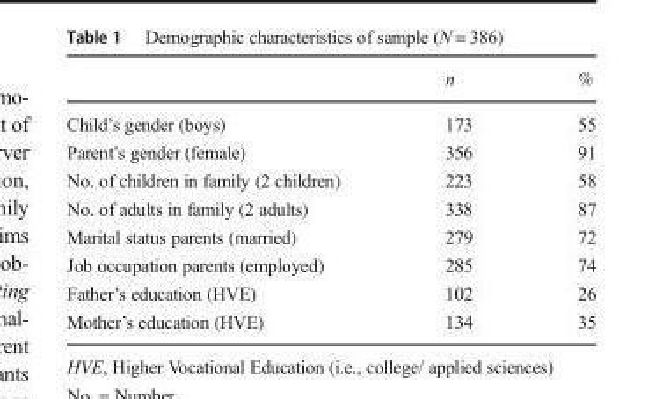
<table><thead><tr><td></td><td>n</td><td>%</td></tr></thead><tbody><tr><td>Child’s gender (boys)</td><td>173</td><td>55</td></tr><tr><td>Parent’s gender (female)</td><td>356</td><td>91</td></tr><tr><td>No. of children in family (2 children)</td><td>223</td><td>58</td></tr><tr><td>No. of adults in family (2 adults)</td><td>338</td><td>87</td></tr><tr><td>Marital status parents (married)</td><td>279</td><td>72</td></tr><tr><td>Job occupation parents (employed)</td><td>285</td><td>74</td></tr><tr><td>Father’s education (HVE)</td><td>102</td><td>26</td></tr><tr><td>Mother’s education (HVE)</td><td>134</td><td>35</td></tr></tbody></table>